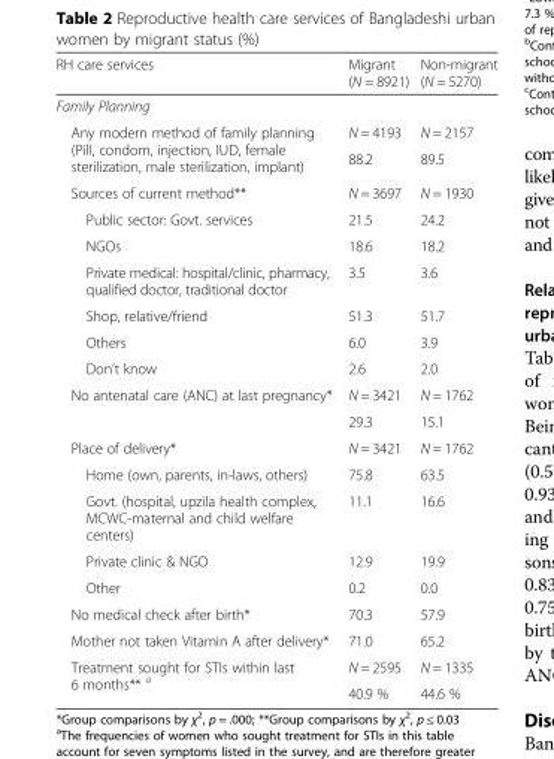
<table><thead><tr><td>RH care services</td><td>Migrant (N = 8921)</td><td>Non-migrant (N = 5270)</td></tr></thead><tbody><tr><td colspan="3">Family Planning</td></tr><tr><td rowspan="2">Any modern method of family planning (Pill, condom, injection, IUD, female sterilization, male sterilization, implant)</td><td>N = 4193</td><td>N = 2157</td></tr><tr><td>88.2</td><td>89.5</td></tr><tr><td>Sources of current method**</td><td>N = 3697</td><td>N = 1930</td></tr><tr><td>Public sector: Govt. services</td><td>21.5</td><td>24.2</td></tr><tr><td>NGOs</td><td>18.6</td><td>18.2</td></tr><tr><td>Private medical: hospital/clinic, pharmacy, qualified doctor, traditional doctor</td><td>3.5</td><td>3.6</td></tr><tr><td>Shop, relative/friend</td><td>51.3</td><td>51.7</td></tr><tr><td>Others</td><td>6.0</td><td>3.9</td></tr><tr><td>Don’t know</td><td>2.6</td><td>2.0</td></tr><tr><td rowspan="2">No antenatal care (ANC) at last pregnancy*</td><td>N = 3421</td><td>N = 1762</td></tr><tr><td>29.3</td><td>15.1</td></tr><tr><td>Place of delivery*</td><td>N = 3421</td><td>N = 1762</td></tr><tr><td>Home (own, parents, in-laws, others)</td><td>75.8</td><td>63.5</td></tr><tr><td>Govt. (hospital, upzila health complex, MCWC-maternal and child welfare centers)</td><td>11.1</td><td>16.6</td></tr><tr><td>Private clinic &amp; NGO</td><td>12.9</td><td>19.9</td></tr><tr><td>Other</td><td>0.2</td><td>0.0</td></tr><tr><td>No medical check after birth*</td><td>70.3</td><td>57.9</td></tr><tr><td>Mother not taken Vitamin A after delivery*</td><td>71.0</td><td>65.2</td></tr><tr><td rowspan="2">Treatment sought for STIs within last 6 months** <sup>a</sup></td><td>N = 2595</td><td>N = 1335</td></tr><tr><td>40.9 %</td><td>44.6 %</td></tr></tbody></table>